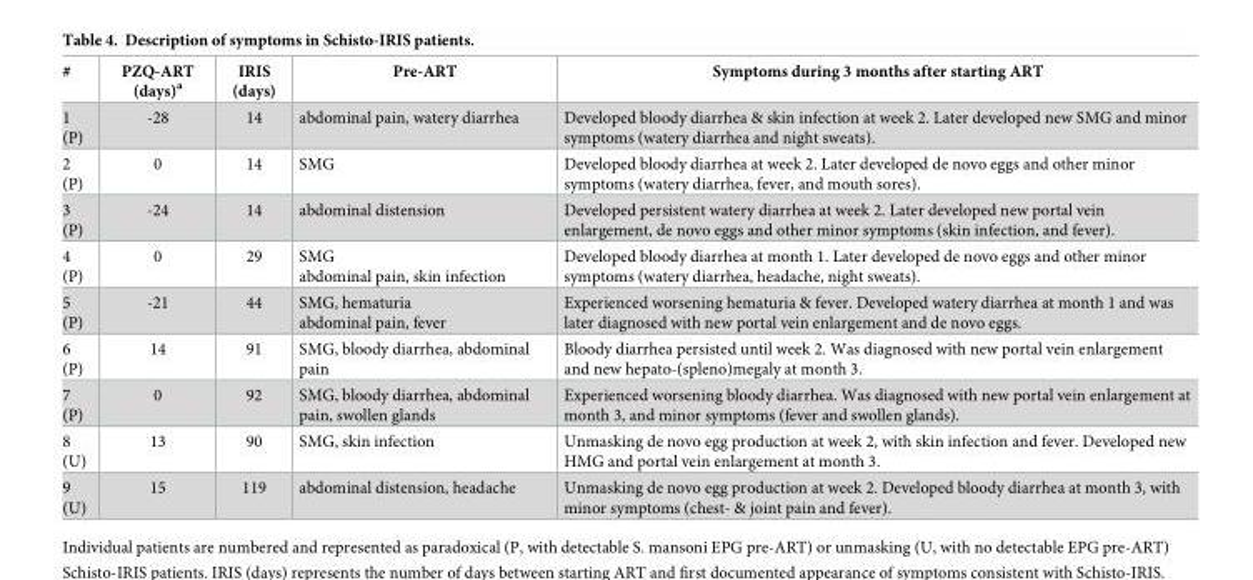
<table><thead><tr><td>#</td><td>PZQ-ART (days)<sup>a</sup></td><td>IRIS (days)</td><td>Pre-ART</td><td>Symptoms during 3 months after starting ART</td></tr></thead><tbody><tr><td>1 (P)</td><td>-28</td><td>14</td><td>abdominal pain, watery diarrhea</td><td>Developed bloody diarrhea &amp; skin infection at week 2. Later developed new SMG and minor symptoms (watery diarrhea and night sweats).</td></tr><tr><td>2 (P)</td><td>0</td><td>14</td><td>SMG</td><td>Developed bloody diarrhea at week 2. Later developed de novo eggs and other minor symptoms (watery diarrhea, fever, and mouth sores).</td></tr><tr><td>3 (P)</td><td>-24</td><td>14</td><td>abdominal distension</td><td>Developed persistent watery diarrhea at week 2. Later developed new portal vein enlargement, de novo eggs and other minor symptoms (skin infection, and fever).</td></tr><tr><td>4 (P)</td><td>0</td><td>29</td><td>SMG abdominal pain, skin infection</td><td>Developed bloody diarrhea at month 1. Later developed de novo eggs and other minor symptoms (watery diarrhea, headache, night sweats).</td></tr><tr><td>5 (P)</td><td>-21</td><td>44</td><td>SMG, hematuria abdominal pain, fever</td><td>Experienced worsening hematuria &amp; fever. Developed watery diarrhea at month 1 and was later diagnosed with new portal vein enlargement and de novo eggs.</td></tr><tr><td>6 (P)</td><td>14</td><td>91</td><td>SMG, bloody diarrhea, abdominal pain</td><td>Bloody diarrhea persisted until week 2. Was diagnosed with new portal vein enlargement and new hepato-(spleno)megaly at month 3.</td></tr><tr><td>7 (P)</td><td>0</td><td>92</td><td>SMG, bloody diarrhea, abdominal pain, swollen glands</td><td>Experienced worsening bloody diarrhea. Was diagnosed with new portal vein enlargement at month 3, and minor symptoms (fever and swollen glands).</td></tr><tr><td>8 (U)</td><td>13</td><td>90</td><td>SMG, skin infection</td><td>Unmasking de novo egg production at week 2, with skin infection and fever. Developed new HMG and portal vein enlargement at month 3.</td></tr><tr><td>9 (U)</td><td>15</td><td>119</td><td>abdominal distension, headache</td><td>Unmasking de novo egg production at week 2. Developed bloody diarrhea at month 3, with minor symptoms (chest- &amp; joint pain and fever).</td></tr></tbody></table>